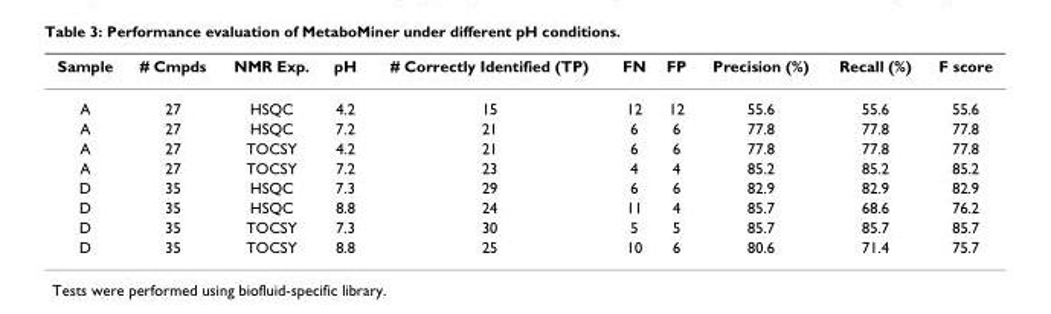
<table><thead><tr><td>Sample</td><td># Cmpds</td><td>NMR Exp.</td><td>pH</td><td># Correctly Identified (TP)</td><td>FN</td><td>FP</td><td>Precision (%)</td><td>Recall (%)</td><td>F score</td></tr></thead><tbody><tr><td>A</td><td>27</td><td>HSQC</td><td>4.2</td><td>15</td><td>12</td><td>12</td><td>55.6</td><td>55.6</td><td>55.6</td></tr><tr><td>A</td><td>27</td><td>HSQC</td><td>7.2</td><td>21</td><td>6</td><td>6</td><td>77.8</td><td>77.8</td><td>77.8</td></tr><tr><td>A</td><td>27</td><td>TOCSY</td><td>4.2</td><td>21</td><td>6</td><td>6</td><td>77.8</td><td>77.8</td><td>77.8</td></tr><tr><td>A</td><td>27</td><td>TOCSY</td><td>7.2</td><td>23</td><td>4</td><td>4</td><td>85.2</td><td>85.2</td><td>85.2</td></tr><tr><td>D</td><td>35</td><td>HSQC</td><td>7.3</td><td>29</td><td>6</td><td>6</td><td>82.9</td><td>82.9</td><td>82.9</td></tr><tr><td>D</td><td>35</td><td>HSQC</td><td>8.8</td><td>24</td><td>11</td><td>4</td><td>85.7</td><td>68.6</td><td>76.2</td></tr><tr><td>D</td><td>35</td><td>TOCSY</td><td>7.3</td><td>30</td><td>5</td><td>5</td><td>85.7</td><td>85.7</td><td>85.7</td></tr><tr><td>D</td><td>35</td><td>TOCSY</td><td>8.8</td><td>25</td><td>10</td><td>6</td><td>80.6</td><td>71.4</td><td>75.7</td></tr></tbody></table>